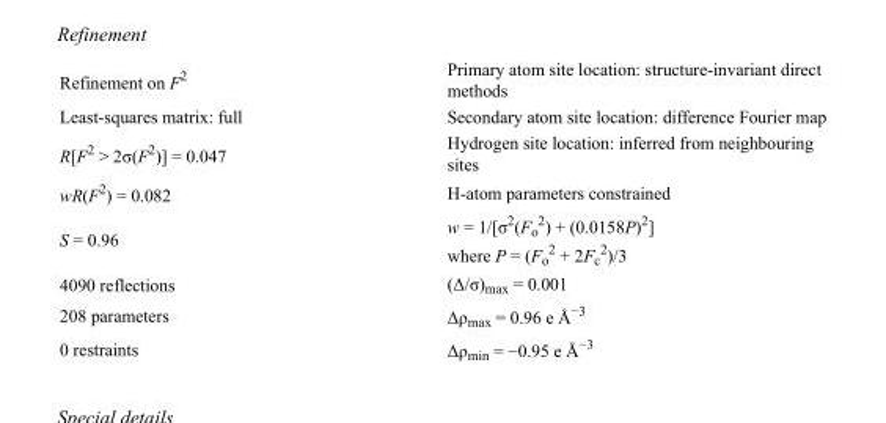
<table><tbody><tr><td>Refinement on F<sup>2</sup></td><td>Primary atom site location: structure-invariant direct methods</td></tr><tr><td>Least-squares matrix: full</td><td>Secondary atom site location: difference Fourier map</td></tr><tr><td>R[F<sup>2</sup> &gt; 2σ(F<sup>2</sup>)] = 0.047</td><td>Hydrogen site location: inferred from neighbouring sites</td></tr><tr><td>wR(F<sup>2</sup>) = 0.082</td><td>H-atom parameters constrained</td></tr><tr><td>S = 0.96</td><td>w = 1/[σ<sup>2</sup>(F<sub>o</sub> <sup>2</sup>) + (0.0158P)<sup>2</sup>] where P = (F<sub>o</sub> <sup>2</sup> + 2F<sub>c</sub> <sup>2</sup>)/3</td></tr><tr><td>4090 reflections</td><td>(Δ/σ)<sub>max</sub> = 0.001</td></tr><tr><td>208 parameters</td><td>Δρ<sub>max</sub> = 0.96 e Å<sup>−3</sup></td></tr><tr><td>0 restraints</td><td>Δρ<sub>min</sub> = −0.95 e Å<sup>−3</sup></td></tr></tbody></table>